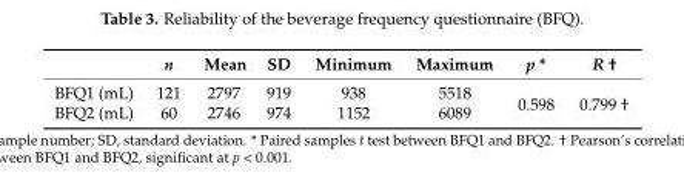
<table><thead><tr><td></td><td>n</td><td>Mean</td><td>SD</td><td>Minimum</td><td>Maximum</td><td>p *</td><td>R †</td></tr></thead><tbody><tr><td>BFQ1 (mL)</td><td>121</td><td>2797</td><td>919</td><td>938</td><td>5518</td><td rowspan="2">0.598</td><td rowspan="2">0.799 †</td></tr><tr><td>BFQ2 (mL)</td><td>60</td><td>2746</td><td>974</td><td>1152</td><td>6089</td></tr></tbody></table>